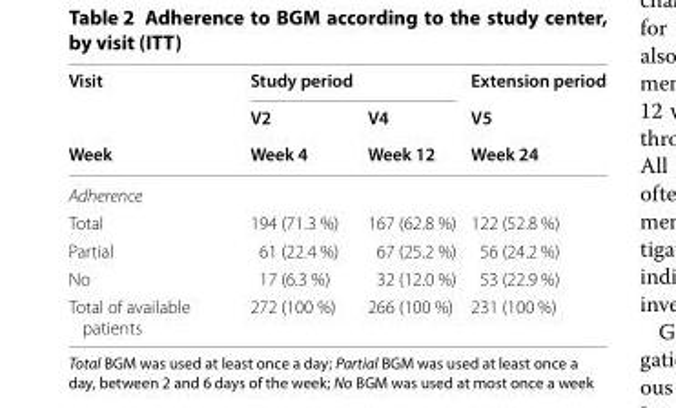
<table><thead><tr><td rowspan="3">Visit Week</td><td colspan="2">Study period</td><td rowspan="3">Extension period V5 Week 24</td></tr><tr><td rowspan="2">V2 Week 4</td><td rowspan="2">V4 Week 12</td></tr><tr></tr></thead><tbody><tr><td colspan="4">Adherence</td></tr><tr><td>Total</td><td>194 (71.3 %)</td><td>167 (62.8 %)</td><td>122 (52.8 %)</td></tr><tr><td>Partial</td><td>61 (22.4 %)</td><td>67 (25.2 %)</td><td>56 (24.2 %)</td></tr><tr><td>No</td><td>17 (6.3 %)</td><td>32 (12.0 %)</td><td>53 (22.9 %)</td></tr><tr><td>Total of available patients</td><td>272 (100 %)</td><td>266 (100 %)</td><td>231 (100 %)</td></tr></tbody></table>